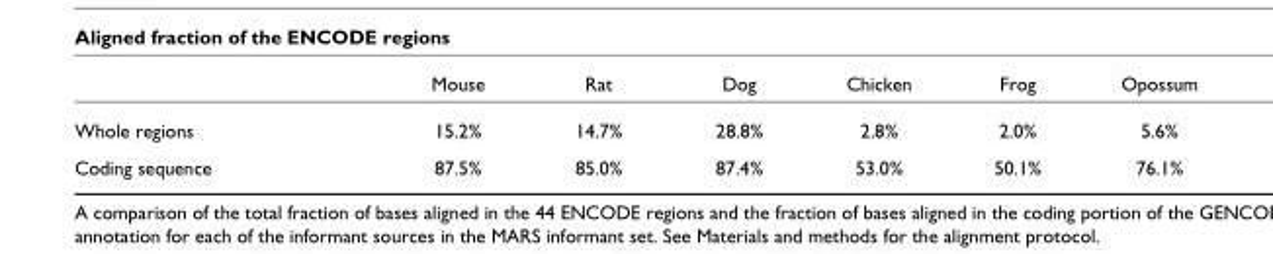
<table><thead><tr><td></td><td>Mouse</td><td>Rat</td><td>Dog</td><td>Chicken</td><td>Frog</td><td>Opossum</td></tr></thead><tbody><tr><td>Whole regions</td><td>15.2%</td><td>14.7%</td><td>28.8%</td><td>2.8%</td><td>2.0%</td><td>5.6%</td></tr><tr><td>Coding sequence</td><td>87.5%</td><td>85.0%</td><td>87.4%</td><td>53.0%</td><td>50.1%</td><td>76.1%</td></tr></tbody></table>